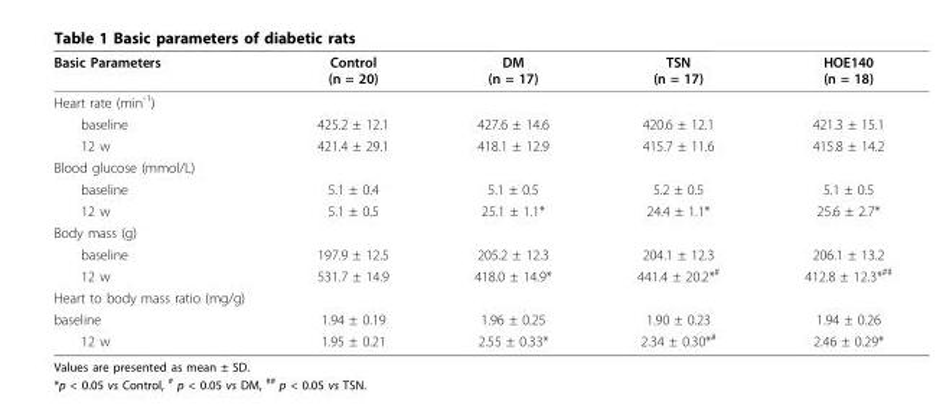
<table><thead><tr><td>Basic Parameters</td><td>Control (n = 20)</td><td>DM (n = 17)</td><td>TSN (n = 17)</td><td>HOE140 (n = 18)</td></tr></thead><tbody><tr><td colspan="5">Heart rate (min<sup>-1</sup>)</td></tr><tr><td>baseline</td><td>425.2 ± 12.1</td><td>427.6 ± 14.6</td><td>420.6 ± 12.1</td><td>421.3 ± 15.1</td></tr><tr><td>12 w</td><td>421.4 ± 29.1</td><td>418.1 ± 12.9</td><td>415.7 ± 11.6</td><td>415.8 ± 14.2</td></tr><tr><td colspan="5">Blood glucose (mmol/L)</td></tr><tr><td>baseline</td><td>5.1 ± 0.4</td><td>5.1 ± 0.5</td><td>5.2 ± 0.5</td><td>5.1 ± 0.5</td></tr><tr><td>12 w</td><td>5.1 ± 0.5</td><td>25.1 ± 1.1*</td><td>24.4 ± 1.1*</td><td>25.6 ± 2.7*</td></tr><tr><td colspan="5">Body mass (g)</td></tr><tr><td>baseline</td><td>197.9 ± 12.5</td><td>205.2 ± 12.3</td><td>204.1 ± 12.3</td><td>206.1 ± 13.2</td></tr><tr><td>12 w</td><td>531.7 ± 14.9</td><td>418.0 ± 14.9*</td><td>441.4 ± 20.2*<sup>#</sup></td><td>412.8 ± 12.3*<sup>##</sup></td></tr><tr><td colspan="5">Heart to body mass ratio (mg/g)</td></tr><tr><td>baseline</td><td>1.94 ± 0.19</td><td>1.96 ± 0.25</td><td>1.90 ± 0.23</td><td>1.94 ± 0.26</td></tr><tr><td>12 w</td><td>1.95 ± 0.21</td><td>2.55 ± 0.33*</td><td>2.34 ± 0.30*<sup>#</sup></td><td>2.46 ± 0.29*</td></tr></tbody></table>